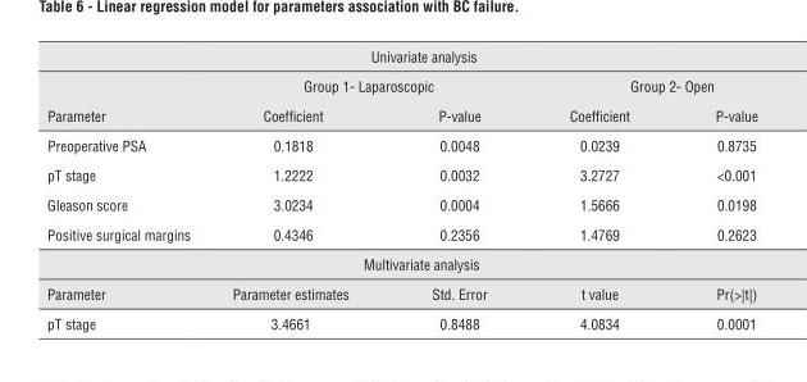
<table><thead><tr><td colspan="5">Univariate analysis</td></tr><tr><td rowspan="2">Parameter</td><td colspan="2">Group 1- Laparoscopic</td><td colspan="2">Group 2- Open</td></tr><tr><td>Coefficient</td><td>P-value</td><td>Coefficient</td><td>P-value</td></tr></thead><tbody><tr><td>Preoperative PSA</td><td>0.1818</td><td>0.0048</td><td>0.0239</td><td>0.8735</td></tr><tr><td>pT stage</td><td>1.2222</td><td>0.0032</td><td>3.2727</td><td>&lt;0.001</td></tr><tr><td>Gleason score</td><td>3.0234</td><td>0.0004</td><td>1.5666</td><td>0.0198</td></tr><tr><td>Positive surgical margins</td><td>0.4346</td><td>0.2356</td><td>1.4769</td><td>0.2623</td></tr><tr><td colspan="5">Multivariate analysis</td></tr><tr><td>Parameter</td><td>Parameter estimates</td><td>Std. Error</td><td>t value</td><td>Pr(&gt;|t|)</td></tr><tr><td>pT stage</td><td>3.4661</td><td>0.8488</td><td>4.0834</td><td>0.0001</td></tr></tbody></table>